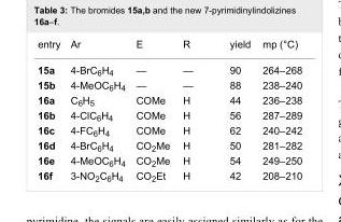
<table><tbody><tr><td>entry</td><td>Ar</td><td>E</td><td>R</td><td>yield</td><td>mp (°C)</td></tr><tr><td>15a</td><td>4-BrC<sub>6</sub>H<sub>4</sub></td><td>—</td><td>—</td><td>90</td><td>264–268</td></tr><tr><td>15b</td><td>4-MeOC<sub>6</sub>H<sub>4</sub></td><td>—</td><td>—</td><td>88</td><td>238–240</td></tr><tr><td>16a</td><td>C<sub>6</sub>H<sub>5</sub></td><td>COMe</td><td>H</td><td>44</td><td>236–238</td></tr><tr><td>16b</td><td>4-ClC<sub>6</sub>H<sub>4</sub></td><td>COMe</td><td>H</td><td>56</td><td>287–289</td></tr><tr><td>16c</td><td>4-FC<sub>6</sub>H<sub>4</sub></td><td>COMe</td><td>H</td><td>62</td><td>240–242</td></tr><tr><td>16d</td><td>4-BrC<sub>6</sub>H<sub>4</sub></td><td>CO<sub>2</sub>Me</td><td>H</td><td>50</td><td>281–282</td></tr><tr><td>16e</td><td>4-MeOC<sub>6</sub>H<sub>4</sub></td><td>CO<sub>2</sub>Me</td><td>H</td><td>54</td><td>249–250</td></tr><tr><td>16f</td><td>3-NO<sub>2</sub>C<sub>6</sub>H<sub>4</sub></td><td>CO<sub>2</sub>Et</td><td>H</td><td>42</td><td>208–210</td></tr></tbody></table>